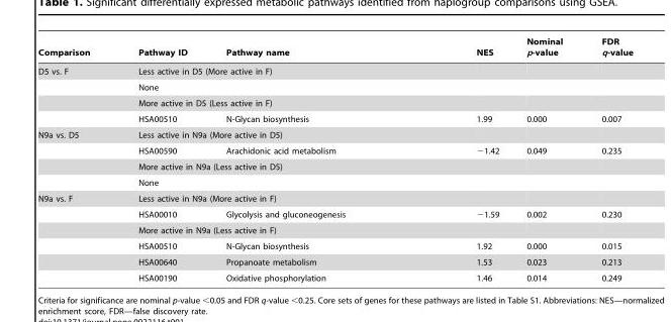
<table><thead><tr><td>Comparison</td><td>Pathway ID</td><td>Pathway name</td><td>NES</td><td>Nominal p-value</td><td>FDR q-value</td></tr></thead><tbody><tr><td rowspan="4">D5 vs. F</td><td colspan="2">Less active in D5 (More active in F)</td><td></td><td></td><td></td></tr><tr><td>None</td><td></td><td></td><td></td><td></td></tr><tr><td colspan="2">More active in D5 (Less active in F)</td><td></td><td></td><td></td></tr><tr><td>HSA00510</td><td>N-Glycan biosynthesis</td><td>1.99</td><td>0.000</td><td>0.007</td></tr><tr><td rowspan="4">N9a vs. D5</td><td colspan="2">Less active in N9a (More active in D5)</td><td></td><td></td><td></td></tr><tr><td>HSA00590</td><td>Arachidonic acid metabolism</td><td>−1.42</td><td>0.049</td><td>0.235</td></tr><tr><td colspan="2">More active in N9a (Less active in D5)</td><td></td><td></td><td></td></tr><tr><td>None</td><td></td><td></td><td></td><td></td></tr><tr><td rowspan="6">N9a vs. F</td><td colspan="2">Less active in N9a (More active in F)</td><td></td><td></td><td></td></tr><tr><td>HSA00010</td><td>Glycolysis and gluconeogenesis</td><td>−1.59</td><td>0.002</td><td>0.230</td></tr><tr><td colspan="2">More active in N9a (Less active in F)</td><td></td><td></td><td></td></tr><tr><td>HSA00510</td><td>N-Glycan biosynthesis</td><td>1.92</td><td>0.000</td><td>0.015</td></tr><tr><td>HSA00640</td><td>Propanoate metabolism</td><td>1.53</td><td>0.023</td><td>0.213</td></tr><tr><td>HSA00190</td><td>Oxidative phosphorylation</td><td>1.46</td><td>0.014</td><td>0.249</td></tr></tbody></table>